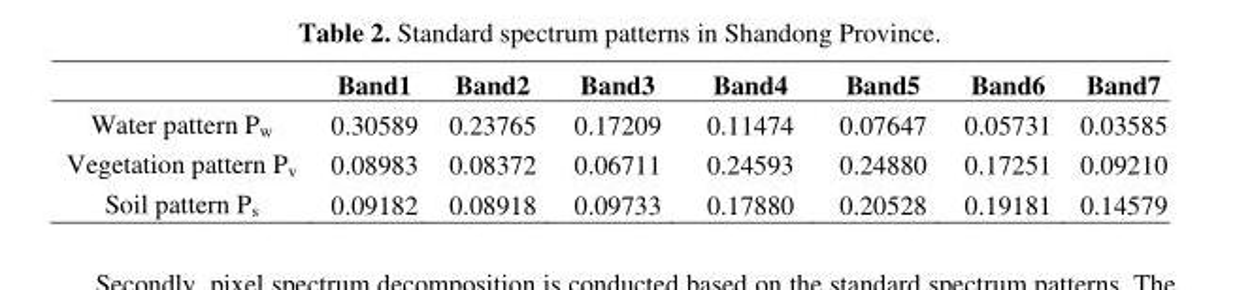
<table><thead><tr><td></td><td>Band1</td><td>Band2</td><td>Band3</td><td>Band4</td><td>Band5</td><td>Band6</td><td>Band7</td></tr></thead><tbody><tr><td>Water pattern P<sub>w</sub></td><td>0.30589</td><td>0.23765</td><td>0.17209</td><td>0.11474</td><td>0.07647</td><td>0.05731</td><td>0.03585</td></tr><tr><td>Vegetation pattern P<sub>v</sub></td><td>0.08983</td><td>0.08372</td><td>0.06711</td><td>0.24593</td><td>0.24880</td><td>0.17251</td><td>0.09210</td></tr><tr><td>Soil pattern P<sub>s</sub></td><td>0.09182</td><td>0.08918</td><td>0.09733</td><td>0.17880</td><td>0.20528</td><td>0.19181</td><td>0.14579</td></tr></tbody></table>